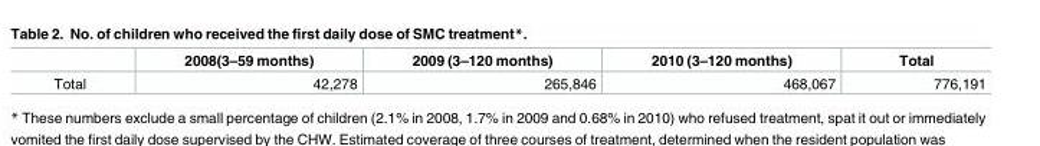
<table><thead><tr><td></td><td>2008(3–59 months)</td><td>2009 (3–120 months)</td><td>2010 (3–120 months)</td><td>Total</td></tr></thead><tbody><tr><td>Total</td><td>42,278</td><td>265,846</td><td>468,067</td><td>776,191</td></tr></tbody></table>